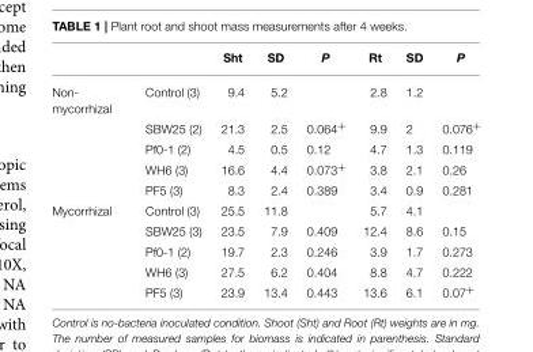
<table><thead><tr><td></td><td></td><td>Sht</td><td>SD</td><td>P</td><td>Rt</td><td>SD</td><td>P</td></tr></thead><tbody><tr><td rowspan="5">Non- mycorrhizal</td><td>Control (3)</td><td>9.4</td><td>5.2</td><td></td><td>2.8</td><td>1.2</td><td></td></tr><tr><td>SBW25 (2)</td><td>21.3</td><td>2.5</td><td>0.064<sup>+</sup></td><td>9.9</td><td>2</td><td>0.076<sup>+</sup></td></tr><tr><td>Pf0-1 (2)</td><td>4.5</td><td>0.5</td><td>0.12</td><td>4.7</td><td>1.3</td><td>0.119</td></tr><tr><td>WH6 (3)</td><td>16.6</td><td>4.4</td><td>0.073<sup>+</sup></td><td>3.8</td><td>2.1</td><td>0.26</td></tr><tr><td>PF5 (3)</td><td>8.3</td><td>2.4</td><td>0.389</td><td>3.4</td><td>0.9</td><td>0.281</td></tr><tr><td rowspan="5">Mycorrhizal</td><td>Control (3)</td><td>25.5</td><td>11.8</td><td></td><td>5.7</td><td>4.1</td><td></td></tr><tr><td>SBW25 (3)</td><td>23.5</td><td>7.9</td><td>0.409</td><td>12.4</td><td>8.6</td><td>0.15</td></tr><tr><td>Pf0-1 (2)</td><td>19.7</td><td>2.3</td><td>0.246</td><td>3.9</td><td>1.7</td><td>0.273</td></tr><tr><td>WH6 (3)</td><td>27.5</td><td>6.2</td><td>0.404</td><td>8.8</td><td>4.7</td><td>0.222</td></tr><tr><td>PF5 (3)</td><td>23.9</td><td>13.4</td><td>0.443</td><td>13.6</td><td>6.1</td><td>0.07<sup>+</sup></td></tr></tbody></table>